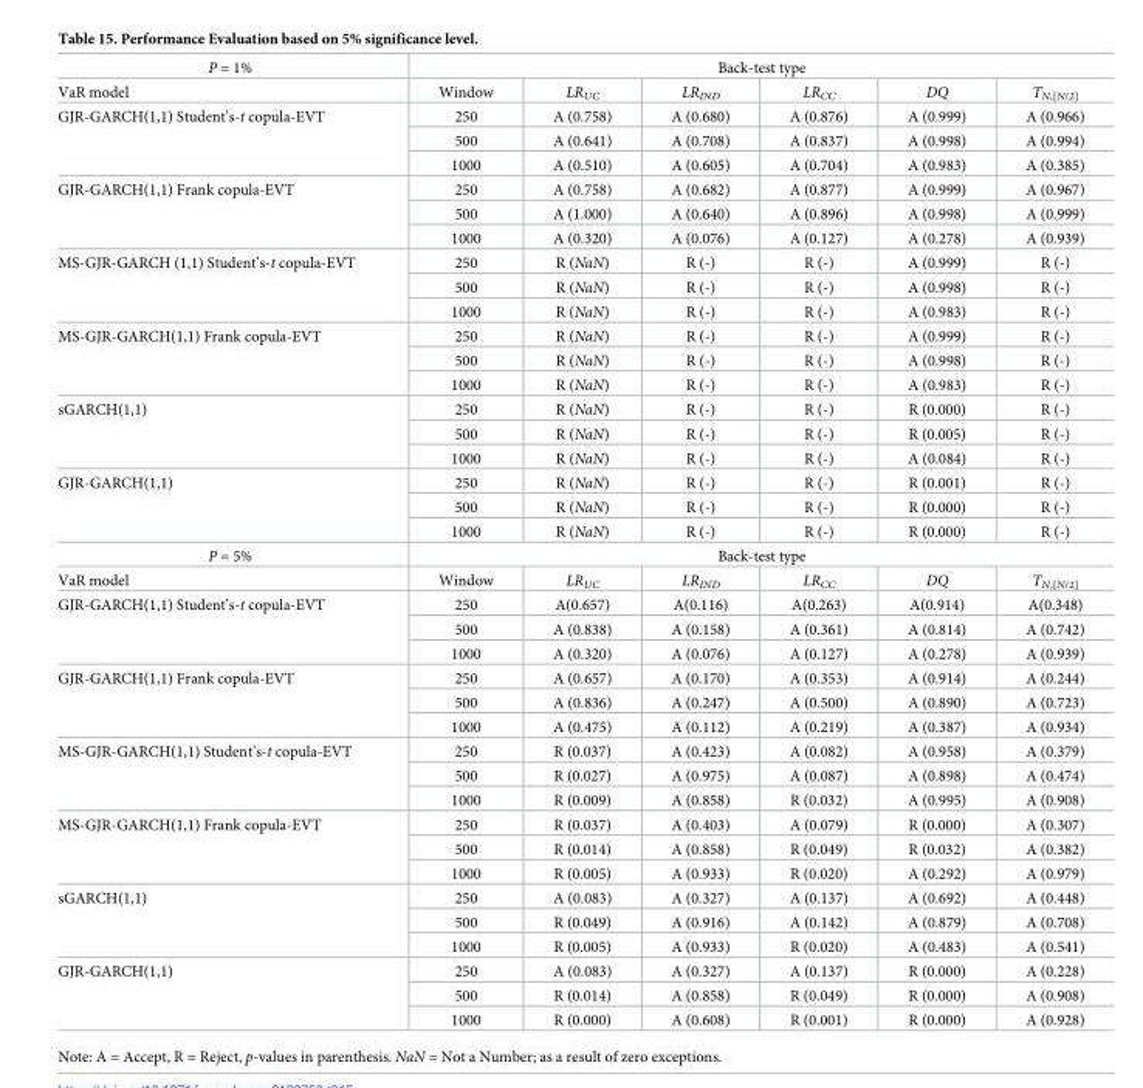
<table><tbody><tr><td>P = 1%</td><td colspan="6">Back-test type</td></tr><tr><td>VaR model</td><td>Window</td><td>LR<sub>UC</sub></td><td>LR<sub>IND</sub></td><td>LR<sub>CC</sub></td><td>DQ</td><td>T<sub>N,[N/2]</sub></td></tr><tr><td rowspan="3">GJR-GARCH(1,1) Student’s-t copula-EVT</td><td>250</td><td>A (0.758)</td><td>A (0.680)</td><td>A (0.876)</td><td>A (0.999)</td><td>A (0.966)</td></tr><tr><td>500</td><td>A (0.641)</td><td>A (0.708)</td><td>A (0.837)</td><td>A (0.998)</td><td>A (0.994)</td></tr><tr><td>1000</td><td>A (0.510)</td><td>A (0.605)</td><td>A (0.704)</td><td>A (0.983)</td><td>A (0.385)</td></tr><tr><td rowspan="3">GJR-GARCH(1,1) Frank copula-EVT</td><td>250</td><td>A (0.758)</td><td>A (0.682)</td><td>A (0.877)</td><td>A (0.999)</td><td>A (0.967)</td></tr><tr><td>500</td><td>A (1.000)</td><td>A (0.640)</td><td>A (0.896)</td><td>A (0.998)</td><td>A (0.999)</td></tr><tr><td>1000</td><td>A (0.320)</td><td>A (0.076)</td><td>A (0.127)</td><td>A (0.278)</td><td>A (0.939)</td></tr><tr><td rowspan="3">MS-GJR-GARCH (1,1) Student’s-t copula-EVT</td><td>250</td><td>R (NaN)</td><td>R (-)</td><td>R (-)</td><td>A (0.999)</td><td>R (-)</td></tr><tr><td>500</td><td>R (NaN)</td><td>R (-)</td><td>R (-)</td><td>A (0.998)</td><td>R (-)</td></tr><tr><td>1000</td><td>R (NaN)</td><td>R (-)</td><td>R (-)</td><td>A (0.983)</td><td>R (-)</td></tr><tr><td rowspan="3">MS-GJR-GARCH(1,1) Frank copula-EVT</td><td>250</td><td>R (NaN)</td><td>R (-)</td><td>R (-)</td><td>A (0.999)</td><td>R (-)</td></tr><tr><td>500</td><td>R (NaN)</td><td>R (-)</td><td>R (-)</td><td>A (0.998)</td><td>R (-)</td></tr><tr><td>1000</td><td>R (NaN)</td><td>R (-)</td><td>R (-)</td><td>A (0.983)</td><td>R (-)</td></tr><tr><td rowspan="3">sGARCH(1,1)</td><td>250</td><td>R (NaN)</td><td>R (-)</td><td>R (-)</td><td>R (0.000)</td><td>R (-)</td></tr><tr><td>500</td><td>R (NaN)</td><td>R (-)</td><td>R (-)</td><td>R (0.005)</td><td>R (-)</td></tr><tr><td>1000</td><td>R (NaN)</td><td>R (-)</td><td>R (-)</td><td>A (0.084)</td><td>R (-)</td></tr><tr><td rowspan="3">GJR-GARCH(1,1)</td><td>250</td><td>R (NaN)</td><td>R (-)</td><td>R (-)</td><td>R (0.001)</td><td>R (-)</td></tr><tr><td>500</td><td>R (NaN)</td><td>R (-)</td><td>R (-)</td><td>R (0.000)</td><td>R (-)</td></tr><tr><td>1000</td><td>R (NaN)</td><td>R (-)</td><td>R (-)</td><td>R (0.000)</td><td>R (-)</td></tr><tr><td>P = 5%</td><td colspan="6">Back-test type</td></tr><tr><td>VaR model</td><td>Window</td><td>LR<sub>UC</sub></td><td>LR<sub>IND</sub></td><td>LR<sub>CC</sub></td><td>DQ</td><td>T<sub>N,[N/2]</sub></td></tr><tr><td rowspan="3">GJR-GARCH(1,1) Student’s-t copula-EVT</td><td>250</td><td>A(0.657)</td><td>A(0.116)</td><td>A(0.263)</td><td>A(0.914)</td><td>A(0.348)</td></tr><tr><td>500</td><td>A (0.838)</td><td>A (0.158)</td><td>A (0.361)</td><td>A (0.814)</td><td>A (0.742)</td></tr><tr><td>1000</td><td>A (0.320)</td><td>A (0.076)</td><td>A (0.127)</td><td>A (0.278)</td><td>A (0.939)</td></tr><tr><td rowspan="3">GJR-GARCH(1,1) Frank copula-EVT</td><td>250</td><td>A (0.657)</td><td>A (0.170)</td><td>A (0.353)</td><td>A (0.914)</td><td>A (0.244)</td></tr><tr><td>500</td><td>A (0.836)</td><td>A (0.247)</td><td>A (0.500)</td><td>A (0.890)</td><td>A (0.723)</td></tr><tr><td>1000</td><td>A (0.475)</td><td>A (0.112)</td><td>A (0.219)</td><td>A (0.387)</td><td>A (0.934)</td></tr><tr><td rowspan="3">MS-GJR-GARCH(1,1) Student’s-t copula-EVT</td><td>250</td><td>R (0.037)</td><td>A (0.423)</td><td>A (0.082)</td><td>A (0.958)</td><td>A (0.379)</td></tr><tr><td>500</td><td>R (0.027)</td><td>A (0.975)</td><td>A (0.087)</td><td>A (0.898)</td><td>A (0.474)</td></tr><tr><td>1000</td><td>R (0.009)</td><td>A (0.858)</td><td>R (0.032)</td><td>A (0.995)</td><td>A (0.908)</td></tr><tr><td rowspan="3">MS-GJR-GARCH(1,1) Frank copula-EVT</td><td>250</td><td>R (0.037)</td><td>A (0.403)</td><td>A (0.079)</td><td>R (0.000)</td><td>A (0.307)</td></tr><tr><td>500</td><td>R (0.014)</td><td>A (0.858)</td><td>R (0.049)</td><td>R (0.032)</td><td>A (0.382)</td></tr><tr><td>1000</td><td>R (0.005)</td><td>A (0.933)</td><td>R (0.020)</td><td>A (0.292)</td><td>A (0.979)</td></tr><tr><td rowspan="3">sGARCH(1,1)</td><td>250</td><td>A (0.083)</td><td>A (0.327)</td><td>A (0.137)</td><td>A (0.692)</td><td>A (0.448)</td></tr><tr><td>500</td><td>R (0.049)</td><td>A (0.916)</td><td>A (0.142)</td><td>A (0.879)</td><td>A (0.708)</td></tr><tr><td>1000</td><td>R (0.005)</td><td>A (0.933)</td><td>R (0.020)</td><td>A (0.483)</td><td>A (0.541)</td></tr><tr><td rowspan="3">GJR-GARCH(1,1)</td><td>250</td><td>A (0.083)</td><td>A (0.327)</td><td>A (0.137)</td><td>R (0.000)</td><td>A (0.228)</td></tr><tr><td>500</td><td>R (0.014)</td><td>A (0.858)</td><td>R (0.049)</td><td>R (0.000)</td><td>A (0.908)</td></tr><tr><td>1000</td><td>R (0.000)</td><td>A (0.608)</td><td>R (0.001)</td><td>R (0.000)</td><td>A (0.928)</td></tr></tbody></table>